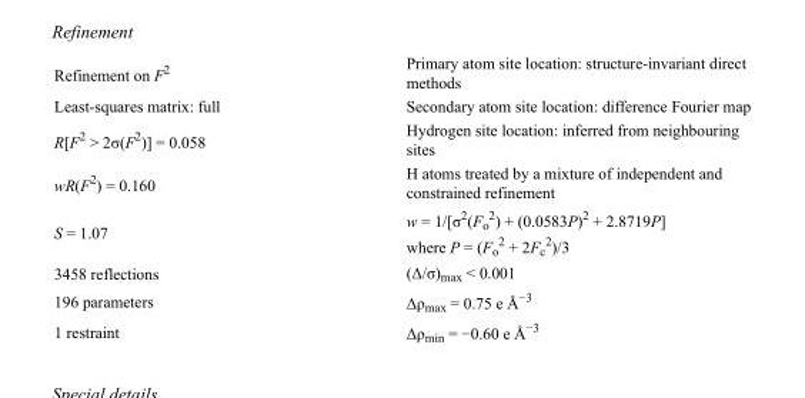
<table><tbody><tr><td>Refinement on F<sup>2</sup></td><td>Primary atom site location: structure-invariant direct methods</td></tr><tr><td>Least-squares matrix: full</td><td>Secondary atom site location: difference Fourier map</td></tr><tr><td>R[F<sup>2</sup> &gt; 2σ(F<sup>2</sup>)] = 0.058</td><td>Hydrogen site location: inferred from neighbouring sites</td></tr><tr><td>wR(F<sup>2</sup>) = 0.160</td><td>H atoms treated by a mixture of independent and constrained refinement</td></tr><tr><td>S = 1.07</td><td>w = 1/[σ<sup>2</sup>(F<sub>o</sub> <sup>2</sup>) + (0.0583P)<sup>2</sup> + 2.8719P] where P = (F<sub>o</sub> <sup>2</sup> + 2F<sub>c</sub> <sup>2</sup>)/3</td></tr><tr><td>3458 reflections</td><td>(Δ/σ)<sub>max</sub> &lt; 0.001</td></tr><tr><td>196 parameters</td><td>Δρ<sub>max</sub> = 0.75 e Å<sup>−3</sup></td></tr><tr><td>1 restraint</td><td>Δρ<sub>min</sub> = −0.60 e Å<sup>−3</sup></td></tr></tbody></table>